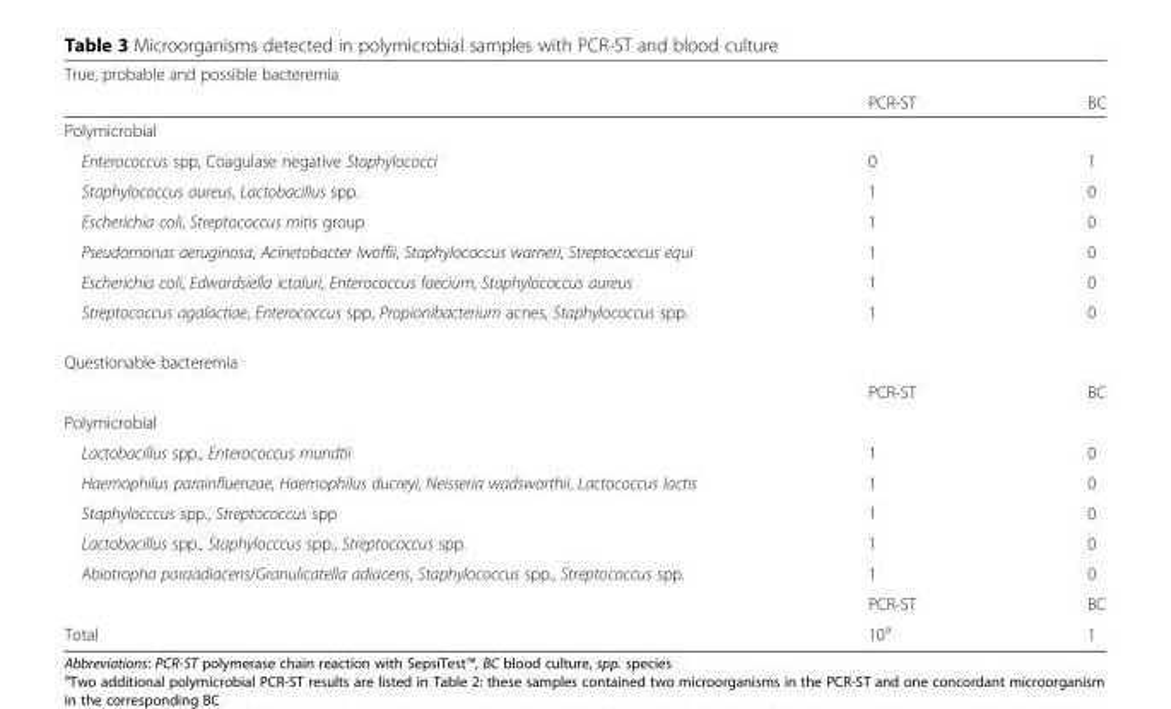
<table><thead><tr><td rowspan="2">True, probable and possible bacteremia</td><td rowspan="2">PCR-ST</td><td rowspan="2">BC</td></tr><tr></tr></thead><tbody><tr><td colspan="3">Polymicrobial</td></tr><tr><td>Enterococcus spp, Coagulase negative Staphylococci</td><td>0</td><td>1</td></tr><tr><td>Staphylococcus aureus, Lactobacillus spp.</td><td>1</td><td>0</td></tr><tr><td>Escherichia coli, Streptococcus mitis group</td><td>1</td><td>0</td></tr><tr><td>Pseudomonas aeruginosa, Acinetobacter lwoffii, Staphylococcus warneri, Streptococcus equi</td><td>1</td><td>0</td></tr><tr><td>Escherichia coli, Edwardsiella ictaluri, Enterococcus faecium, Staphylococcus aureus</td><td>1</td><td>0</td></tr><tr><td>Streptococcus agalactiae, Enterococcus spp, Propionibacterium acnes, Staphylococcus spp.</td><td>1</td><td>0</td></tr><tr><td colspan="3">Questionable bacteremia</td></tr><tr><td></td><td>PCR-ST</td><td>BC</td></tr><tr><td colspan="3">Polymicrobial</td></tr><tr><td>Lactobacillus spp., Enterococcus mundtii</td><td>1</td><td>0</td></tr><tr><td>Haemophilus parainfluenzae, Haemophilus ducreyi, Neisseria wadsworthii, Lactococcus lactis</td><td>1</td><td>0</td></tr><tr><td>Staphylocccus spp., Streptococcus spp</td><td>1</td><td>0</td></tr><tr><td>Lactobacillus spp., Staphylocccus spp., Streptococcus spp.</td><td>1</td><td>0</td></tr><tr><td rowspan="2">Abiotropha paraadiacens/Granulicatella adiacens, Staphylococcus spp., Streptococcus spp.</td><td>1</td><td>0</td></tr><tr><td>PCR-ST</td><td>BC</td></tr><tr><td>Total</td><td>10<sup>a</sup></td><td>1</td></tr></tbody></table>